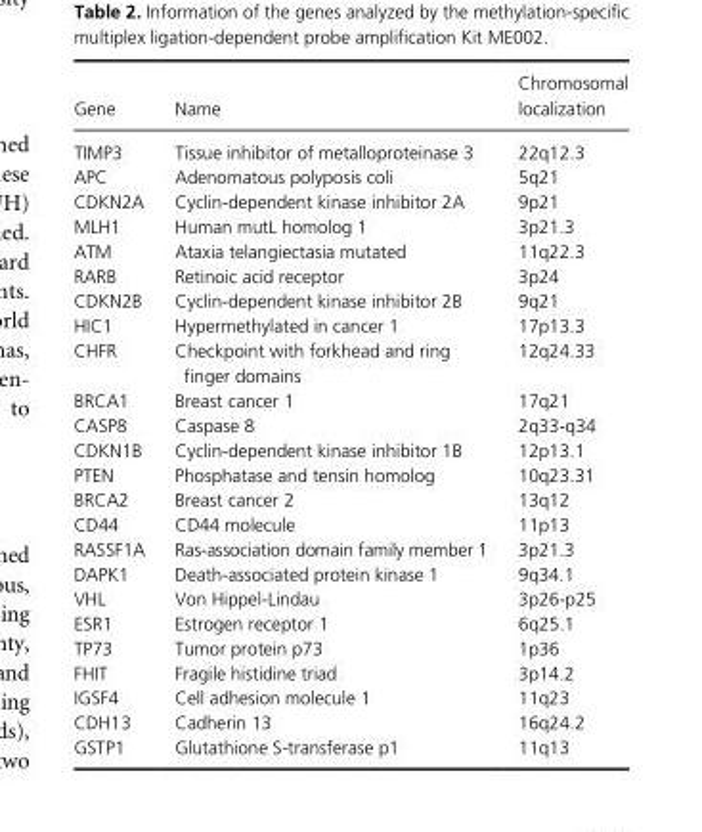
<table><thead><tr><td>Gene</td><td>Name</td><td>Chromosomal localization</td></tr></thead><tbody><tr><td>TIMP3</td><td>Tissue inhibitor of metalloproteinase 3</td><td>22q12.3</td></tr><tr><td>APC</td><td>Adenomatous polyposis coli</td><td>5q21</td></tr><tr><td>CDKN2A</td><td>Cyclin- dependent kinase inhibitor 2A</td><td>9p21</td></tr><tr><td>MLH1</td><td>Human mutL homolog 1</td><td>3p21.3</td></tr><tr><td>ATM</td><td>Ataxia telangiectasia mutated</td><td>11q22.3</td></tr><tr><td>RARB</td><td>Retinoic acid receptor</td><td>3p24</td></tr><tr><td>CDKN2B</td><td>Cyclin- dependent kinase inhibitor 2B</td><td>9q21</td></tr><tr><td>HIC1</td><td>Hypermethylated in cancer 1</td><td>17p13.3</td></tr><tr><td>CHFR</td><td>Checkpoint with forkhead and ring finger domains</td><td>12q24.33</td></tr><tr><td>BRCA1</td><td>Breast cancer 1</td><td>17q21</td></tr><tr><td>CASP8</td><td>Caspase 8</td><td>2q33- q34</td></tr><tr><td>CDKN1B</td><td>Cyclin- dependent kinase inhibitor 1B</td><td>12p13.1</td></tr><tr><td>PTEN</td><td>Phosphatase and tensin homolog</td><td>10q23.31</td></tr><tr><td>BRCA2</td><td>Breast cancer 2</td><td>13q12</td></tr><tr><td>CD44</td><td>CD44 molecule</td><td>11p13</td></tr><tr><td>RASSF1A</td><td>Ras- association domain family member 1</td><td>3p21.3</td></tr><tr><td>DAPK1</td><td>Death- associated protein kinase 1</td><td>9q34.1</td></tr><tr><td>VHL</td><td>Von Hippel- Lindau</td><td>3p26- p25</td></tr><tr><td>ESR1</td><td>Estrogen receptor 1</td><td>6q25.1</td></tr><tr><td>TP73</td><td>Tumor protein p73</td><td>1p36</td></tr><tr><td>FHIT</td><td>Fragile histidine triad</td><td>3p14.2</td></tr><tr><td>IGSF4</td><td>Cell adhesion molecule 1</td><td>11q23</td></tr><tr><td>CDH13</td><td>Cadherin 13</td><td>16q24.2</td></tr><tr><td>GSTP1</td><td>Glutathione S- transferase p1</td><td>11q13</td></tr></tbody></table>